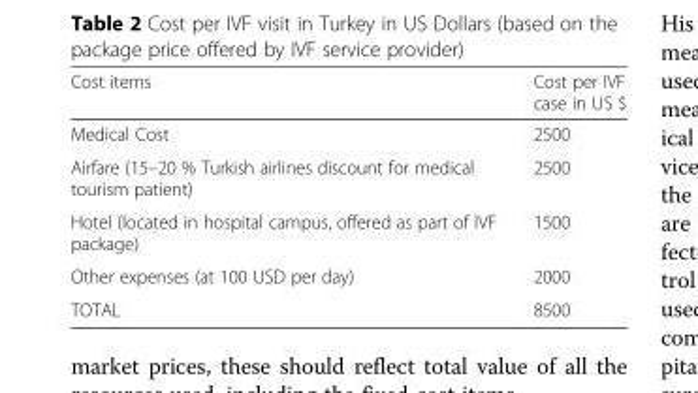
<table><thead><tr><td>Cost items</td><td>Cost per IVF case in US $</td></tr></thead><tbody><tr><td>Medical Cost</td><td>2500</td></tr><tr><td>Airfare (15–20 % Turkish airlines discount for medical tourism patient)</td><td>2500</td></tr><tr><td>Hotel (located in hospital campus, offered as part of IVF package)</td><td>1500</td></tr><tr><td>Other expenses (at 100 USD per day)</td><td>2000</td></tr><tr><td>TOTAL</td><td>8500</td></tr></tbody></table>